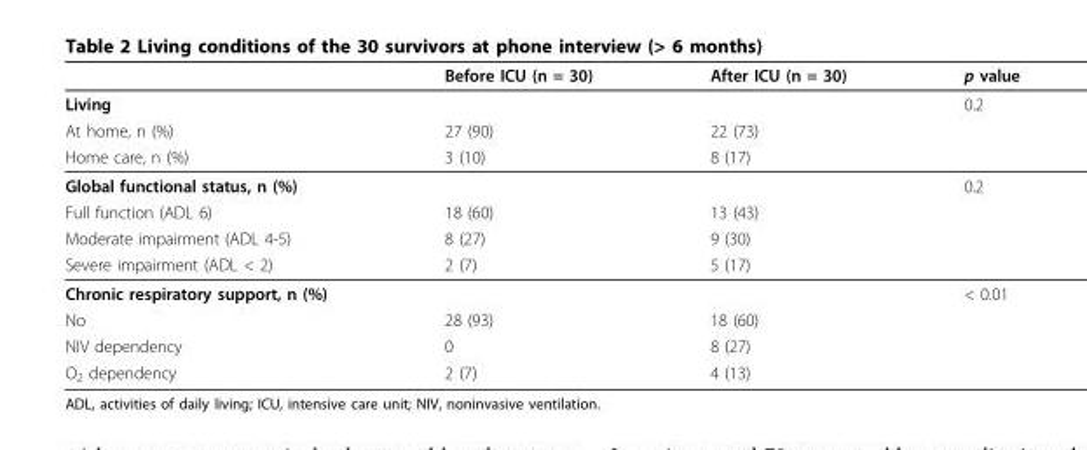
<table><thead><tr><td></td><td>Before ICU (n = 30)</td><td>After ICU (n = 30)</td><td>p value</td></tr></thead><tbody><tr><td>Living</td><td></td><td></td><td>0.2</td></tr><tr><td>At home, n (%)</td><td>27 (90)</td><td>22 (73)</td><td></td></tr><tr><td>Home care, n (%)</td><td>3 (10)</td><td>8 (17)</td><td></td></tr><tr><td>Global functional status, n (%)</td><td></td><td></td><td>0.2</td></tr><tr><td>Full function (ADL 6)</td><td>18 (60)</td><td>13 (43)</td><td></td></tr><tr><td>Moderate impairment (ADL 4-5)</td><td>8 (27)</td><td>9 (30)</td><td></td></tr><tr><td>Severe impairment (ADL &lt; 2)</td><td>2 (7)</td><td>5 (17)</td><td></td></tr><tr><td>Chronic respiratory support, n (%)</td><td></td><td></td><td>&lt; 0.01</td></tr><tr><td>No</td><td>28 (93)</td><td>18 (60)</td><td></td></tr><tr><td>NIV dependency</td><td>0</td><td>8 (27)</td><td></td></tr><tr><td>O<sub>2</sub> dependency</td><td>2 (7)</td><td>4 (13)</td><td></td></tr></tbody></table>